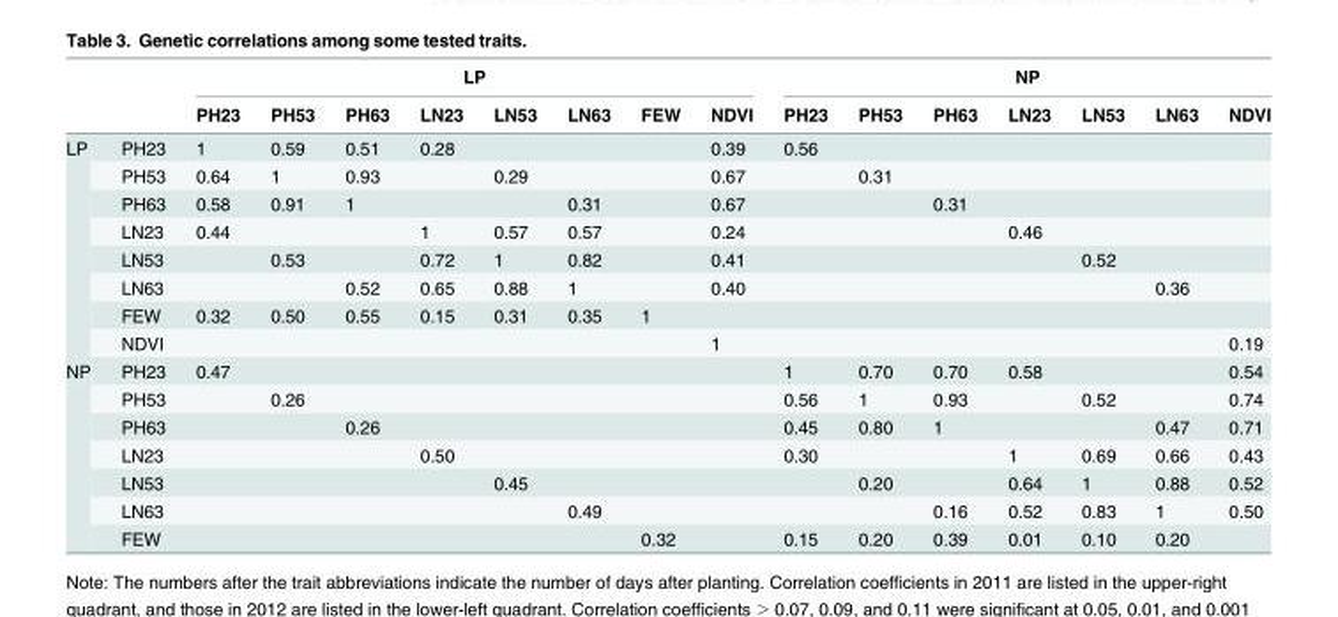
<table><thead><tr><td rowspan="2"></td><td rowspan="2"></td><td colspan="8">LP</td><td colspan="7">NP</td></tr><tr><td>PH23</td><td>PH53</td><td>PH63</td><td>LN23</td><td>LN53</td><td>LN63</td><td>FEW</td><td>NDVI</td><td>PH23</td><td>PH53</td><td>PH63</td><td>LN23</td><td>LN53</td><td>LN63</td><td>NDVI</td></tr></thead><tbody><tr><td rowspan="8">LP</td><td>PH23</td><td>1</td><td>0.59</td><td>0.51</td><td>0.28</td><td></td><td></td><td></td><td>0.39</td><td>0.56</td><td></td><td></td><td></td><td></td><td></td><td></td></tr><tr><td>PH53</td><td>0.64</td><td>1</td><td>0.93</td><td></td><td>0.29</td><td></td><td></td><td>0.67</td><td></td><td>0.31</td><td></td><td></td><td></td><td></td><td></td></tr><tr><td>PH63</td><td>0.58</td><td>0.91</td><td>1</td><td></td><td></td><td>0.31</td><td></td><td>0.67</td><td></td><td></td><td>0.31</td><td></td><td></td><td></td><td></td></tr><tr><td>LN23</td><td>0.44</td><td></td><td></td><td>1</td><td>0.57</td><td>0.57</td><td></td><td>0.24</td><td></td><td></td><td></td><td>0.46</td><td></td><td></td><td></td></tr><tr><td>LN53</td><td></td><td>0.53</td><td></td><td>0.72</td><td>1</td><td>0.82</td><td></td><td>0.41</td><td></td><td></td><td></td><td></td><td>0.52</td><td></td><td></td></tr><tr><td>LN63</td><td></td><td></td><td>0.52</td><td>0.65</td><td>0.88</td><td>1</td><td></td><td>0.40</td><td></td><td></td><td></td><td></td><td></td><td>0.36</td><td></td></tr><tr><td>FEW</td><td>0.32</td><td>0.50</td><td>0.55</td><td>0.15</td><td>0.31</td><td>0.35</td><td>1</td><td></td><td></td><td></td><td></td><td></td><td></td><td></td><td></td></tr><tr><td>NDVI</td><td></td><td></td><td></td><td></td><td></td><td></td><td></td><td>1</td><td></td><td></td><td></td><td></td><td></td><td></td><td>0.19</td></tr><tr><td rowspan="7">NP</td><td>PH23</td><td>0.47</td><td></td><td></td><td></td><td></td><td></td><td></td><td></td><td>1</td><td>0.70</td><td>0.70</td><td>0.58</td><td></td><td></td><td>0.54</td></tr><tr><td>PH53</td><td></td><td>0.26</td><td></td><td></td><td></td><td></td><td></td><td></td><td>0.56</td><td>1</td><td>0.93</td><td></td><td>0.52</td><td></td><td>0.74</td></tr><tr><td>PH63</td><td></td><td></td><td>0.26</td><td></td><td></td><td></td><td></td><td></td><td>0.45</td><td>0.80</td><td>1</td><td></td><td></td><td>0.47</td><td>0.71</td></tr><tr><td>LN23</td><td></td><td></td><td></td><td>0.50</td><td></td><td></td><td></td><td></td><td>0.30</td><td></td><td></td><td>1</td><td>0.69</td><td>0.66</td><td>0.43</td></tr><tr><td>LN53</td><td></td><td></td><td></td><td></td><td>0.45</td><td></td><td></td><td></td><td></td><td>0.20</td><td></td><td>0.64</td><td>1</td><td>0.88</td><td>0.52</td></tr><tr><td>LN63</td><td></td><td></td><td></td><td></td><td></td><td>0.49</td><td></td><td></td><td></td><td></td><td>0.16</td><td>0.52</td><td>0.83</td><td>1</td><td>0.50</td></tr><tr><td>FEW</td><td></td><td></td><td></td><td></td><td></td><td></td><td>0.32</td><td></td><td>0.15</td><td>0.20</td><td>0.39</td><td>0.01</td><td>0.10</td><td>0.20</td><td></td></tr></tbody></table>